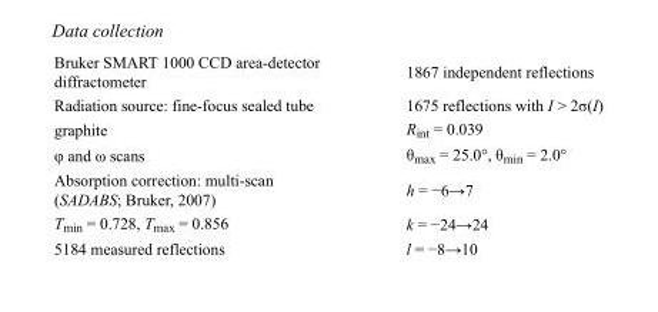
<table><tbody><tr><td>Bruker SMART 1000 CCD area-detector diffractometer</td><td>1867 independent reflections</td></tr><tr><td>Radiation source: fine-focus sealed tube</td><td>1675 reflections with I &gt; 2σ(I)</td></tr><tr><td>graphite</td><td>R<sub>int</sub> = 0.039</td></tr><tr><td>φ and ω scans</td><td>θ<sub>max</sub> = 25.0°, θ<sub>min</sub> = 2.0°</td></tr><tr><td>Absorption correction: multi-scan (SADABS; Bruker, 2007)</td><td>h = −6→7</td></tr><tr><td>T<sub>min</sub> = 0.728, T<sub>max</sub> = 0.856</td><td>k = −24→24</td></tr><tr><td>5184 measured reflections</td><td>l = −8→10</td></tr></tbody></table>